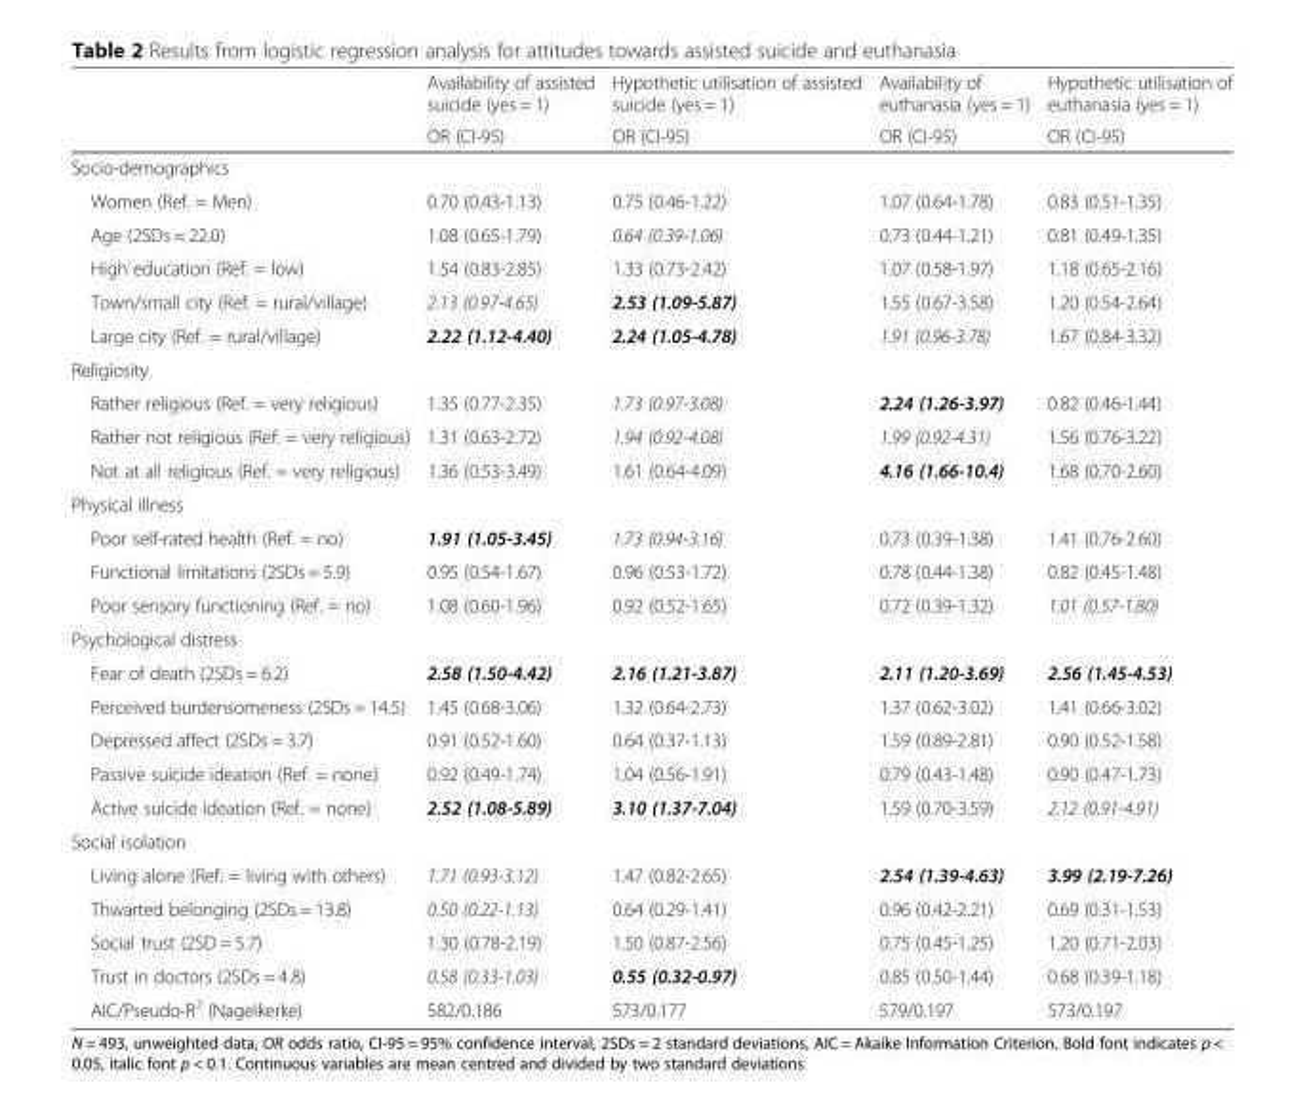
<table><thead><tr><td rowspan="2"></td><td rowspan="2">Availability of assisted suicide (yes = 1) OR (CI-95)</td><td rowspan="2">Hypothetic utilisation of assisted suicide (yes = 1) OR (CI-95)</td><td rowspan="2">Availability of euthanasia (yes = 1) OR (CI-95)</td><td rowspan="2">Hypothetic utilisation of euthanasia (yes = 1) OR (CI-95)</td></tr><tr></tr></thead><tbody><tr><td colspan="5">Socio-demographics</td></tr><tr><td>Women (Ref. = Men)</td><td>0.70 (0.43-1.13)</td><td>0.75 (0.46-1.22)</td><td>1.07 (0.64-1.78)</td><td>0.83 (0.51-1.35)</td></tr><tr><td>Age (2SDs = 22.0)</td><td>1.08 (0.65-1.79)</td><td>0.64 (0.39-1.06)</td><td>0.73 (0.44-1.21)</td><td>0.81 (0.49-1.35)</td></tr><tr><td>High education (Ref. = low)</td><td>1.54 (0.83-2.85)</td><td>1.33 (0.73-2.42)</td><td>1.07 (0.58-1.97)</td><td>1.18 (0.65-2.16)</td></tr><tr><td>Town/small city (Ref. = rural/village)</td><td>2.13 (0.97-4.65)</td><td>2.53 (1.09-5.87)</td><td>1.55 (0.67-3.58)</td><td>1.20 (0.54-2.64)</td></tr><tr><td>Large city (Ref. = rural/village)</td><td>2.22 (1.12-4.40)</td><td>2.24 (1.05-4.78)</td><td>1.91 (0.96-3.78)</td><td>1.67 (0.84-3.32)</td></tr><tr><td colspan="5">Religiosity</td></tr><tr><td>Rather religious (Ref. = very religious)</td><td>1.35 (0.77-2.35)</td><td>1.73 (0.97-3.08)</td><td>2.24 (1.26-3.97)</td><td>0.82 (0.46-1.44)</td></tr><tr><td>Rather not religious (Ref. = very religious)</td><td>1.31 (0.63-2.72)</td><td>1.94 (0.92-4.08)</td><td>1.99 (0.92-4.31)</td><td>1.56 (0.76-3.22)</td></tr><tr><td>Not at all religious (Ref. = very religious)</td><td>1.36 (0.53-3.49)</td><td>1.61 (0.64-4.09)</td><td>4.16 (1.66-10.4)</td><td>1.68 (0.70-2.60)</td></tr><tr><td colspan="5">Physical illness</td></tr><tr><td>Poor self-rated health (Ref. = no)</td><td>1.91 (1.05-3.45)</td><td>1.73 (0.94-3.16)</td><td>0.73 (0.39-1.38)</td><td>1.41 (0.76-2.60)</td></tr><tr><td>Functional limitations (2SDs = 5.9)</td><td>0.95 (0.54-1.67)</td><td>0.96 (0.53-1.72)</td><td>0.78 (0.44-1.38)</td><td>0.82 (0.45-1.48)</td></tr><tr><td>Poor sensory functioning (Ref. = no)</td><td>1.08 (0.60-1.96)</td><td>0.92 (0.52-1.65)</td><td>0.72 (0.39-1.32)</td><td>1.01 (0.57-1.80)</td></tr><tr><td colspan="5">Psychological distress</td></tr><tr><td>Fear of death (2SDs = 6.2)</td><td>2.58 (1.50-4.42)</td><td>2.16 (1.21-3.87)</td><td>2.11 (1.20-3.69)</td><td>2.56 (1.45-4.53)</td></tr><tr><td>Perceived burdensomeness (2SDs = 14.5)</td><td>1.45 (0.68-3.06)</td><td>1.32 (0.64-2.73)</td><td>1.37 (0.62-3.02)</td><td>1.41 (0.66-3.02)</td></tr><tr><td>Depressed affect (2SDs = 3.7)</td><td>0.91 (0.52-1.60)</td><td>0.64 (0.37-1.13)</td><td>1.59 (0.89-2.81)</td><td>0.90 (0.52-1.58)</td></tr><tr><td>Passive suicide ideation (Ref. = none)</td><td>0.92 (0.49-1.74)</td><td>1.04 (0.56-1.91)</td><td>0.79 (0.43-1.48)</td><td>0.90 (0.47-1.73)</td></tr><tr><td>Active suicide ideation (Ref. = none)</td><td>2.52 (1.08-5.89)</td><td>3.10 (1.37-7.04)</td><td>1.59 (0.70-3.59)</td><td>2.12 (0.91-4.91)</td></tr><tr><td colspan="5">Social isolation</td></tr><tr><td>Living alone (Ref. = living with others)</td><td>1.71 (0.93-3.12)</td><td>1.47 (0.82-2.65)</td><td>2.54 (1.39-4.63)</td><td>3.99 (2.19-7.26)</td></tr><tr><td>Thwarted belonging (2SDs = 13.8)</td><td>0.50 (0.22-1.13)</td><td>0.64 (0.29-1.41)</td><td>0.96 (0.42-2.21)</td><td>0.69 (0.31-1.53)</td></tr><tr><td>Social trust (2SD = 5.7)</td><td>1.30 (0.78-2.19)</td><td>1.50 (0.87-2.56)</td><td>0.75 (0.45-1.25)</td><td>1.20 (0.71-2.03)</td></tr><tr><td>Trust in doctors (2SDs = 4.8)</td><td>0.58 (0.33-1.03)</td><td>0.55 (0.32-0.97)</td><td>0.85 (0.50-1.44)</td><td>0.68 (0.39-1.18)</td></tr><tr><td>AIC/Pseudo-R<sup>2</sup> (Nagelkerke)</td><td>582/0.186</td><td>573/0.177</td><td>579/0.197</td><td>573/0.197</td></tr></tbody></table>